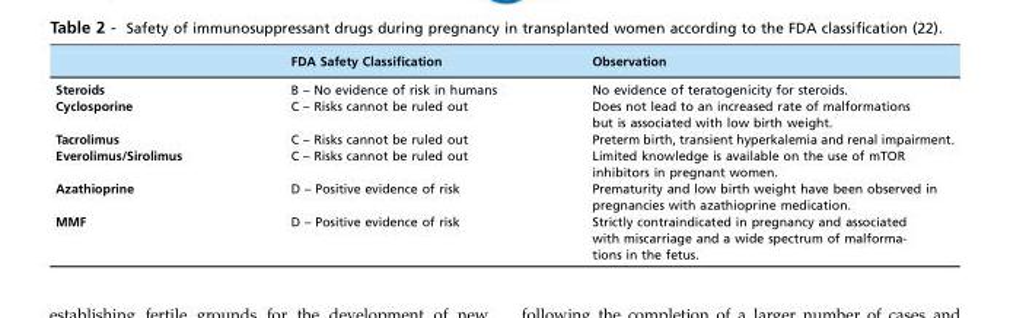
<table><thead><tr><td></td><td>FDA Safety Classification</td><td>Observation</td></tr></thead><tbody><tr><td>Steroids</td><td>B – No evidence of risk in humans</td><td>No evidence of teratogenicity for steroids.</td></tr><tr><td>Cyclosporine</td><td>C – Risks cannot be ruled out</td><td>Does not lead to an increased rate of malformations but is associated with low birth weight.</td></tr><tr><td>Tacrolimus</td><td>C – Risks cannot be ruled out</td><td>Preterm birth, transient hyperkalemia and renal impairment.</td></tr><tr><td>Everolimus/Sirolimus</td><td>C – Risks cannot be ruled out</td><td>Limited knowledge is available on the use of mTOR inhibitors in pregnant women.</td></tr><tr><td>Azathioprine</td><td>D – Positive evidence of risk</td><td>Prematurity and low birth weight have been observed in pregnancies with azathioprine medication.</td></tr><tr><td>MMF</td><td>D – Positive evidence of risk</td><td>Strictly contraindicated in pregnancy and associated with miscarriage and a wide spectrum of malforma- tions in the fetus.</td></tr></tbody></table>